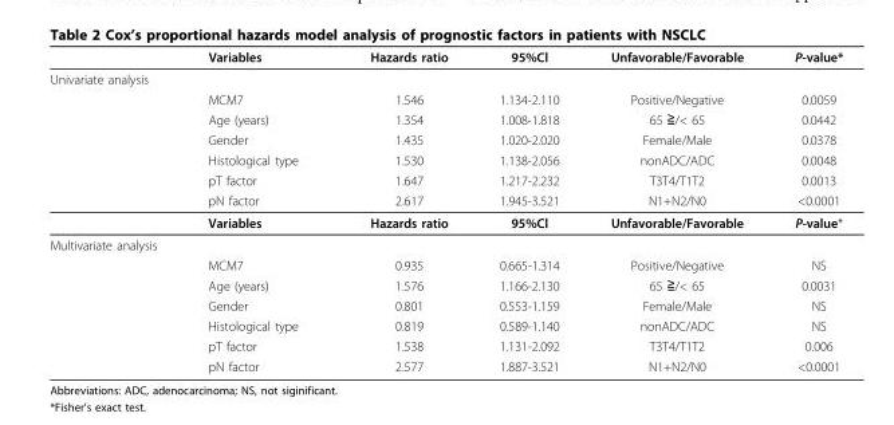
<table><thead><tr><td></td><td>Variables</td><td>Hazards ratio</td><td>95%Cl</td><td>Unfavorable/Favorable</td><td>P-value*</td></tr></thead><tbody><tr><td colspan="6">Univariate analysis</td></tr><tr><td></td><td>MCM7</td><td>1.546</td><td>1.134-2.110</td><td>Positive/Negative</td><td>0.0059</td></tr><tr><td></td><td>Age (years)</td><td>1.354</td><td>1.008-1.818</td><td>65 ≧/&lt; 65</td><td>0.0442</td></tr><tr><td></td><td>Gender</td><td>1.435</td><td>1.020-2.020</td><td>Female/Male</td><td>0.0378</td></tr><tr><td></td><td>Histological type</td><td>1.530</td><td>1.138-2.056</td><td>nonADC/ADC</td><td>0.0048</td></tr><tr><td></td><td>pT factor</td><td>1.647</td><td>1.217-2.232</td><td>T3T4/T1T2</td><td>0.0013</td></tr><tr><td></td><td>pN factor</td><td>2.617</td><td>1.945-3.521</td><td>N1+N2/N0</td><td>&lt;0.0001</td></tr><tr><td></td><td>Variables</td><td>Hazards ratio</td><td>95%Cl</td><td>Unfavorable/Favorable</td><td>P-value*</td></tr><tr><td colspan="6">Multivariate analysis</td></tr><tr><td></td><td>MCM7</td><td>0.935</td><td>0.665-1.314</td><td>Positive/Negative</td><td>NS</td></tr><tr><td></td><td>Age (years)</td><td>1.576</td><td>1.166-2.130</td><td>65 ≧/&lt; 65</td><td>0.0031</td></tr><tr><td></td><td>Gender</td><td>0.801</td><td>0.553-1.159</td><td>Female/Male</td><td>NS</td></tr><tr><td></td><td>Histological type</td><td>0.819</td><td>0.589-1.140</td><td>nonADC/ADC</td><td>NS</td></tr><tr><td></td><td>pT factor</td><td>1.538</td><td>1.131-2.092</td><td>T3T4/T1T2</td><td>0.006</td></tr><tr><td></td><td>pN factor</td><td>2.577</td><td>1.887-3.521</td><td>N1+N2/N0</td><td>&lt;0.0001</td></tr></tbody></table>